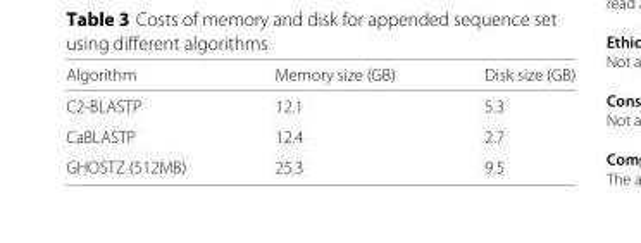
<table><thead><tr><td>Algorithm</td><td>Memory size (GB)</td><td>Disk size (GB)</td></tr></thead><tbody><tr><td>C2-BLASTP</td><td>12.1</td><td>5.3</td></tr><tr><td>CaBLASTP</td><td>12.4</td><td>2.7</td></tr><tr><td>GHOSTZ (512MB)</td><td>25.3</td><td>9.5</td></tr></tbody></table>